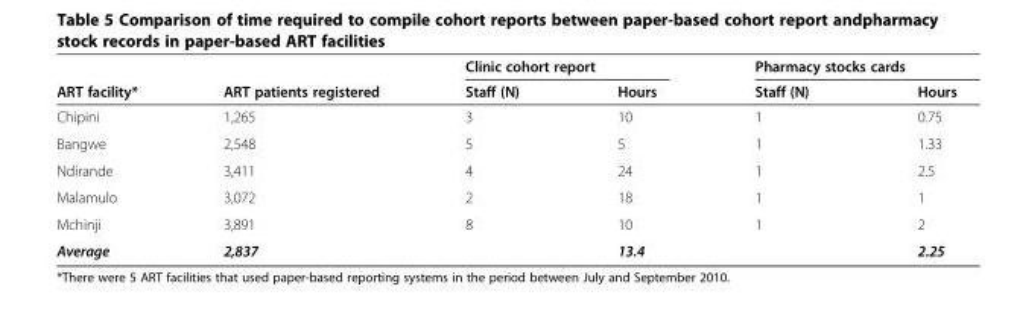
<table><thead><tr><td rowspan="2">ART facility*</td><td rowspan="2">ART patients registered</td><td colspan="2">Clinic cohort report</td><td colspan="2">Pharmacy stocks cards</td></tr><tr><td>Staff (N)</td><td>Hours</td><td>Staff (N)</td><td>Hours</td></tr></thead><tbody><tr><td>Chipini</td><td>1,265</td><td>3</td><td>10</td><td>1</td><td>0.75</td></tr><tr><td>Bangwe</td><td>2,548</td><td>5</td><td>5</td><td>1</td><td>1.33</td></tr><tr><td>Ndirande</td><td>3,411</td><td>4</td><td>24</td><td>1</td><td>2.5</td></tr><tr><td>Malamulo</td><td>3,072</td><td>2</td><td>18</td><td>1</td><td>1</td></tr><tr><td>Mchinji</td><td>3,891</td><td>8</td><td>10</td><td>1</td><td>2</td></tr><tr><td>Average</td><td>2,837</td><td></td><td>13.4</td><td></td><td>2.25</td></tr></tbody></table>